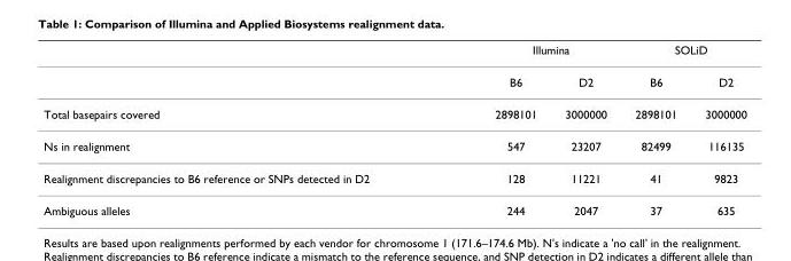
<table><thead><tr><td rowspan="2"></td><td colspan="2">Illumina</td><td colspan="2">SOLiD</td></tr><tr><td>B6</td><td>D2</td><td>B6</td><td>D2</td></tr></thead><tbody><tr><td>Total basepairs covered</td><td>2898101</td><td>3000000</td><td>2898101</td><td>3000000</td></tr><tr><td>Ns in realignment</td><td>547</td><td>23207</td><td>82499</td><td>116135</td></tr><tr><td>Realignment discrepancies to B6 reference or SNPs detected in D2</td><td>128</td><td>11221</td><td>41</td><td>9823</td></tr><tr><td>Ambiguous alleles</td><td>244</td><td>2047</td><td>37</td><td>635</td></tr></tbody></table>